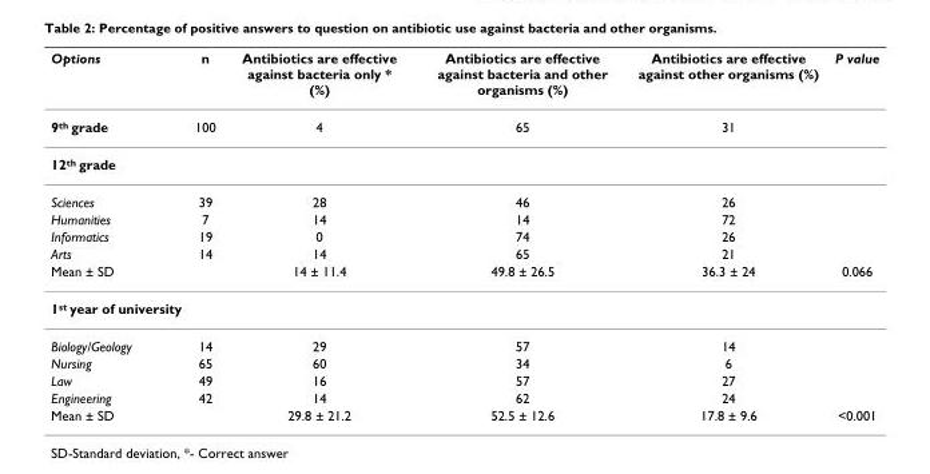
<table><thead><tr><td>Options</td><td>n</td><td>Antibiotics are effective against bacteria only * (%)</td><td>Antibiotics are effective against bacteria and other organisms (%)</td><td>Antibiotics are effective against other organisms (%)</td><td>P value</td></tr></thead><tbody><tr><td>9<sup>th</sup> grade</td><td>100</td><td>4</td><td>65</td><td>31</td><td></td></tr><tr><td colspan="6">12<sup>th</sup> grade</td></tr><tr><td>Sciences</td><td>39</td><td>28</td><td>46</td><td>26</td><td></td></tr><tr><td>Humanities</td><td>7</td><td>14</td><td>14</td><td>72</td><td></td></tr><tr><td>Informatics</td><td>19</td><td>0</td><td>74</td><td>26</td><td></td></tr><tr><td>Arts</td><td>14</td><td>14</td><td>65</td><td>21</td><td></td></tr><tr><td>Mean ± SD</td><td></td><td>14 ± 11.4</td><td>49.8 ± 26.5</td><td>36.3 ± 24</td><td>0.066</td></tr><tr><td colspan="6">1<sup>st</sup> year of university</td></tr><tr><td>Biology/Geology</td><td>14</td><td>29</td><td>57</td><td>14</td><td></td></tr><tr><td>Nursing</td><td>65</td><td>60</td><td>34</td><td>6</td><td></td></tr><tr><td>Law</td><td>49</td><td>16</td><td>57</td><td>27</td><td></td></tr><tr><td>Engineering</td><td>42</td><td>14</td><td>62</td><td>24</td><td></td></tr><tr><td>Mean ± SD</td><td></td><td>29.8 ± 21.2</td><td>52.5 ± 12.6</td><td>17.8 ± 9.6</td><td>&lt;0.001</td></tr></tbody></table>